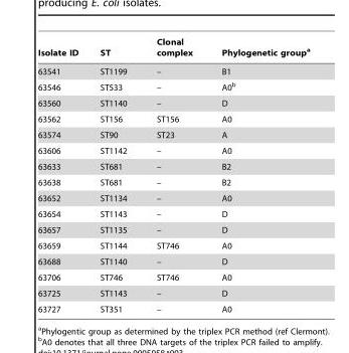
<table><thead><tr><td>Isolate ID</td><td>ST</td><td>Clonal complex</td><td>Phylogenetic group<sup>a</sup></td></tr></thead><tbody><tr><td>63541</td><td>ST1199</td><td>–</td><td>B1</td></tr><tr><td>63546</td><td>ST533</td><td>–</td><td>A0<sup>b</sup></td></tr><tr><td>63560</td><td>ST1140</td><td>–</td><td>D</td></tr><tr><td>63562</td><td>ST156</td><td>ST156</td><td>A0</td></tr><tr><td>63574</td><td>ST90</td><td>ST23</td><td>A</td></tr><tr><td>63606</td><td>ST1142</td><td>–</td><td>A0</td></tr><tr><td>63633</td><td>ST681</td><td>–</td><td>B2</td></tr><tr><td>63638</td><td>ST681</td><td>–</td><td>B2</td></tr><tr><td>63652</td><td>ST1134</td><td>–</td><td>A0</td></tr><tr><td>63654</td><td>ST1143</td><td>–</td><td>D</td></tr><tr><td>63657</td><td>ST1135</td><td>–</td><td>D</td></tr><tr><td>63659</td><td>ST1144</td><td>ST746</td><td>A0</td></tr><tr><td>63688</td><td>ST1140</td><td>–</td><td>D</td></tr><tr><td>63706</td><td>ST746</td><td>ST746</td><td>A0</td></tr><tr><td>63725</td><td>ST1143</td><td>–</td><td>D</td></tr><tr><td>63727</td><td>ST351</td><td>–</td><td>A0</td></tr></tbody></table>